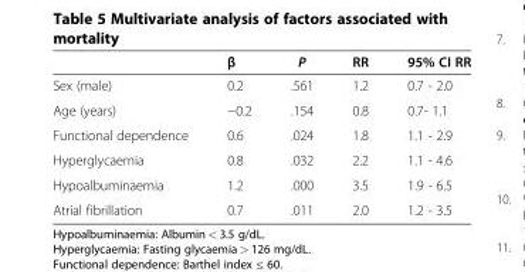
<table><thead><tr><td></td><td>β</td><td>P</td><td>RR</td><td>95% CI RR</td></tr></thead><tbody><tr><td>Sex (male)</td><td>0.2</td><td>.561</td><td>1.2</td><td>0.7 - 2.0</td></tr><tr><td>Age (years)</td><td>−0.2</td><td>.154</td><td>0.8</td><td>0.7- 1.1</td></tr><tr><td>Functional dependence</td><td>0.6</td><td>.024</td><td>1.8</td><td>1.1 - 2.9</td></tr><tr><td>Hyperglycaemia</td><td>0.8</td><td>.032</td><td>2.2</td><td>1.1 - 4.6</td></tr><tr><td>Hypoalbuminaemia</td><td>1.2</td><td>.000</td><td>3.5</td><td>1.9 - 6.5</td></tr><tr><td>Atrial fibrillation</td><td>0.7</td><td>.011</td><td>2.0</td><td>1.2 - 3.5</td></tr></tbody></table>